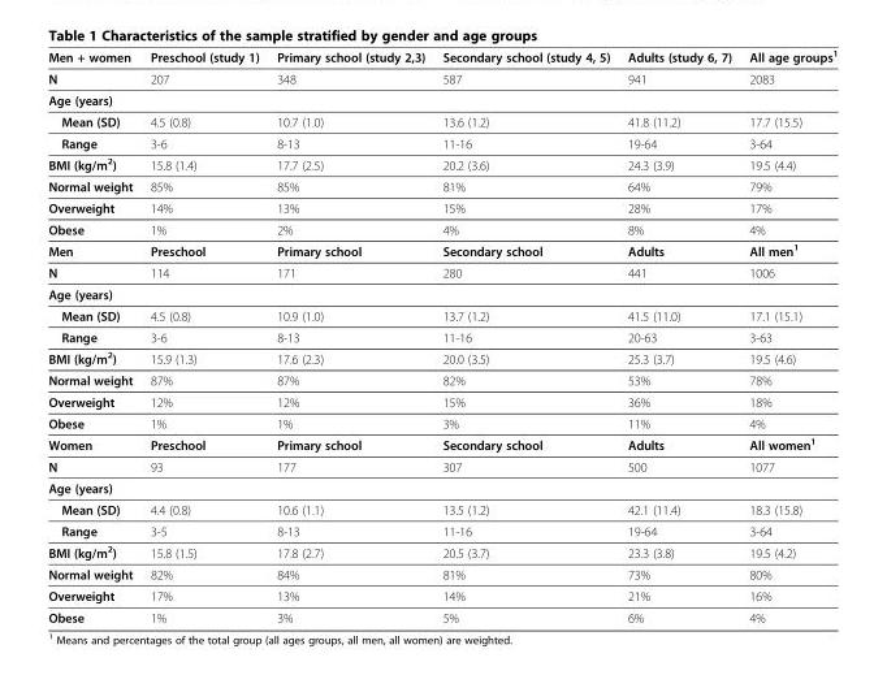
<table><tbody><tr><td>Men + women</td><td>Preschool (study 1)</td><td>Primary school (study 2,3)</td><td>Secondary school (study 4, 5)</td><td>Adults (study 6, 7)</td><td>All age groups<sup>1</sup></td></tr><tr><td>N</td><td>207</td><td>348</td><td>587</td><td>941</td><td>2083</td></tr><tr><td colspan="6">Age (years)</td></tr><tr><td>Mean (SD)</td><td>4.5 (0.8)</td><td>10.7 (1.0)</td><td>13.6 (1.2)</td><td>41.8 (11.2)</td><td>17.7 (15.5)</td></tr><tr><td>Range</td><td>3-6</td><td>8-13</td><td>11-16</td><td>19-64</td><td>3-64</td></tr><tr><td>BMI (kg/m<sup>2</sup>)</td><td>15.8 (1.4)</td><td>17.7 (2.5)</td><td>20.2 (3.6)</td><td>24.3 (3.9)</td><td>19.5 (4.4)</td></tr><tr><td>Normal weight</td><td>85%</td><td>85%</td><td>81%</td><td>64%</td><td>79%</td></tr><tr><td>Overweight</td><td>14%</td><td>13%</td><td>15%</td><td>28%</td><td>17%</td></tr><tr><td>Obese</td><td>1%</td><td>2%</td><td>4%</td><td>8%</td><td>4%</td></tr><tr><td>Men</td><td>Preschool</td><td>Primary school</td><td>Secondary school</td><td>Adults</td><td>All men<sup>1</sup></td></tr><tr><td>N</td><td>114</td><td>171</td><td>280</td><td>441</td><td>1006</td></tr><tr><td colspan="6">Age (years)</td></tr><tr><td>Mean (SD)</td><td>4.5 (0.8)</td><td>10.9 (1.0)</td><td>13.7 (1.2)</td><td>41.5 (11.0)</td><td>17.1 (15.1)</td></tr><tr><td>Range</td><td>3-6</td><td>8-13</td><td>11-16</td><td>20-63</td><td>3-63</td></tr><tr><td>BMI (kg/m<sup>2</sup>)</td><td>15.9 (1.3)</td><td>17.6 (2.3)</td><td>20.0 (3.5)</td><td>25.3 (3.7)</td><td>19.5 (4.6)</td></tr><tr><td>Normal weight</td><td>87%</td><td>87%</td><td>82%</td><td>53%</td><td>78%</td></tr><tr><td>Overweight</td><td>12%</td><td>12%</td><td>15%</td><td>36%</td><td>18%</td></tr><tr><td>Obese</td><td>1%</td><td>1%</td><td>3%</td><td>11%</td><td>4%</td></tr><tr><td>Women</td><td>Preschool</td><td>Primary school</td><td>Secondary school</td><td>Adults</td><td>All women<sup>1</sup></td></tr><tr><td>N</td><td>93</td><td>177</td><td>307</td><td>500</td><td>1077</td></tr><tr><td colspan="6">Age (years)</td></tr><tr><td>Mean (SD)</td><td>4.4 (0.8)</td><td>10.6 (1.1)</td><td>13.5 (1.2)</td><td>42.1 (11.4)</td><td>18.3 (15.8)</td></tr><tr><td>Range</td><td>3-5</td><td>8-13</td><td>11-16</td><td>19-64</td><td>3-64</td></tr><tr><td>BMI (kg/m<sup>2</sup>)</td><td>15.8 (1.5)</td><td>17.8 (2.7)</td><td>20.5 (3.7)</td><td>23.3 (3.8)</td><td>19.5 (4.2)</td></tr><tr><td>Normal weight</td><td>82%</td><td>84%</td><td>81%</td><td>73%</td><td>80%</td></tr><tr><td>Overweight</td><td>17%</td><td>13%</td><td>14%</td><td>21%</td><td>16%</td></tr><tr><td>Obese</td><td>1%</td><td>3%</td><td>5%</td><td>6%</td><td>4%</td></tr></tbody></table>